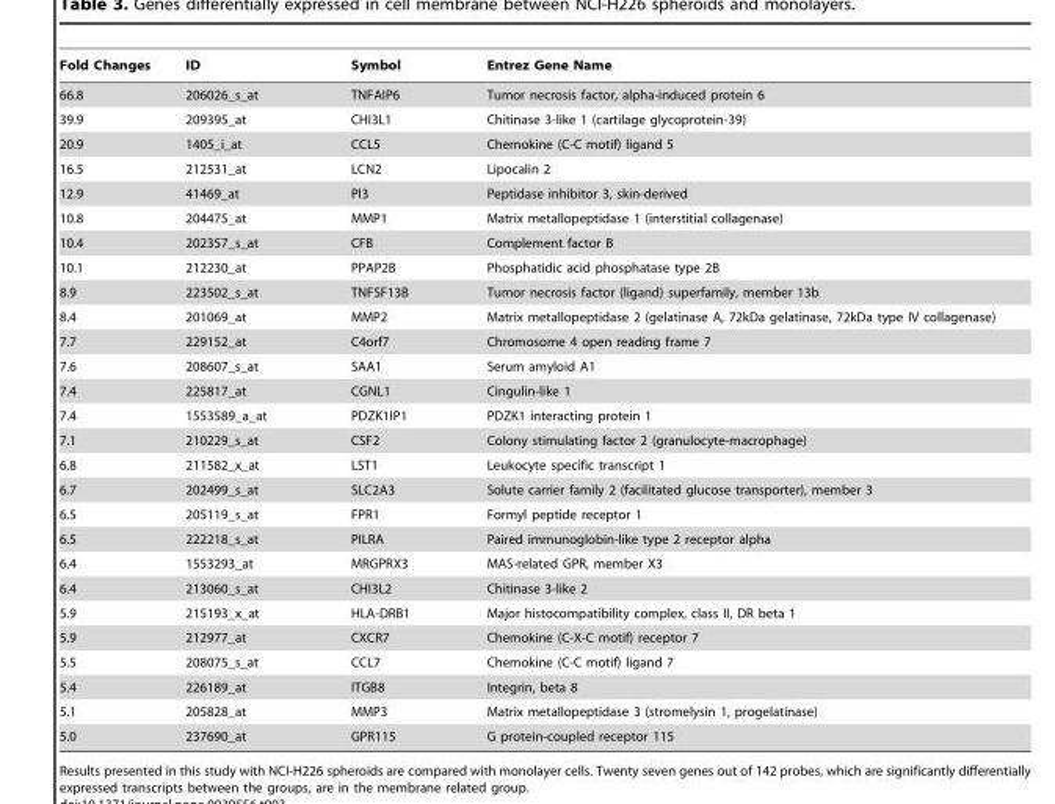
<table><thead><tr><td>Fold Changes</td><td>ID</td><td>Symbol</td><td>Entrez Gene Name</td></tr></thead><tbody><tr><td>66.8</td><td>206026_s_at</td><td>TNFAIP6</td><td>Tumor necrosis factor, alpha-induced protein 6</td></tr><tr><td>39.9</td><td>209395_at</td><td>CHI3L1</td><td>Chitinase 3-like 1 (cartilage glycoprotein-39)</td></tr><tr><td>20.9</td><td>1405_i_at</td><td>CCL5</td><td>Chemokine (C-C motif) ligand 5</td></tr><tr><td>16.5</td><td>212531_at</td><td>LCN2</td><td>Lipocalin 2</td></tr><tr><td>12.9</td><td>41469_at</td><td>PI3</td><td>Peptidase inhibitor 3, skin-derived</td></tr><tr><td>10.8</td><td>204475_at</td><td>MMP1</td><td>Matrix metallopeptidase 1 (interstitial collagenase)</td></tr><tr><td>10.4</td><td>202357_s_at</td><td>CFB</td><td>Complement factor B</td></tr><tr><td>10.1</td><td>212230_at</td><td>PPAP2B</td><td>Phosphatidic acid phosphatase type 2B</td></tr><tr><td>8.9</td><td>223502_s_at</td><td>TNFSF13B</td><td>Tumor necrosis factor (ligand) superfamily, member 13b</td></tr><tr><td>8.4</td><td>201069_at</td><td>MMP2</td><td>Matrix metallopeptidase 2 (gelatinase A, 72kDa gelatinase, 72kDa type IV collagenase)</td></tr><tr><td>7.7</td><td>229152_at</td><td>C4orf7</td><td>Chromosome 4 open reading frame 7</td></tr><tr><td>7.6</td><td>208607_s_at</td><td>SAA1</td><td>Serum amyloid A1</td></tr><tr><td>7.4</td><td>225817_at</td><td>CGNL1</td><td>Cingulin-like 1</td></tr><tr><td>7.4</td><td>1553589_a_at</td><td>PDZK1IP1</td><td>PDZK1 interacting protein 1</td></tr><tr><td>7.1</td><td>210229_s_at</td><td>CSF2</td><td>Colony stimulating factor 2 (granulocyte-macrophage)</td></tr><tr><td>6.8</td><td>211582_x_at</td><td>LST1</td><td>Leukocyte specific transcript 1</td></tr><tr><td>6.7</td><td>202499_s_at</td><td>SLC2A3</td><td>Solute carrier family 2 (facilitated glucose transporter), member 3</td></tr><tr><td>6.5</td><td>205119_s_at</td><td>FPR1</td><td>Formyl peptide receptor 1</td></tr><tr><td>6.5</td><td>222218_s_at</td><td>PILRA</td><td>Paired immunoglobin-like type 2 receptor alpha</td></tr><tr><td>6.4</td><td>1553293_at</td><td>MRGPRX3</td><td>MAS-related GPR, member X3</td></tr><tr><td>6.4</td><td>213060_s_at</td><td>CHI3L2</td><td>Chitinase 3-like 2</td></tr><tr><td>5.9</td><td>215193_x_at</td><td>HLA-DRB1</td><td>Major histocompatibility complex, class II, DR beta 1</td></tr><tr><td>5.9</td><td>212977_at</td><td>CXCR7</td><td>Chemokine (C-X-C motif) receptor 7</td></tr><tr><td>5.5</td><td>208075_s_at</td><td>CCL7</td><td>Chemokine (C-C motif) ligand 7</td></tr><tr><td>5.4</td><td>226189_at</td><td>ITGB8</td><td>Integrin, beta 8</td></tr><tr><td>5.1</td><td>205828_at</td><td>MMP3</td><td>Matrix metallopeptidase 3 (stromelysin 1, progelatinase)</td></tr><tr><td>5.0</td><td>237690_at</td><td>GPR115</td><td>G protein-coupled receptor 115</td></tr></tbody></table>